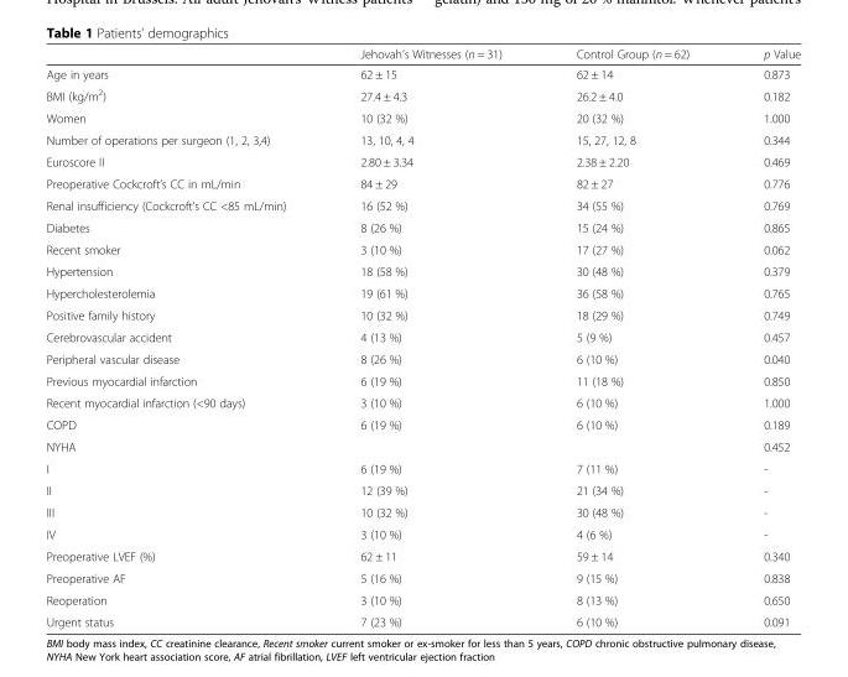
<table><thead><tr><td></td><td>Jehovah’s Witnesses (n = 31)</td><td>Control Group (n = 62)</td><td>p Value</td></tr></thead><tbody><tr><td>Age in years</td><td>62 ± 15</td><td>62 ± 14</td><td>0.873</td></tr><tr><td>BMI (kg/m<sup>2</sup>)</td><td>27.4 ± 4.3</td><td>26.2 ± 4.0</td><td>0.182</td></tr><tr><td>Women</td><td>10 (32 %)</td><td>20 (32 %)</td><td>1.000</td></tr><tr><td>Number of operations per surgeon (1, 2, 3,4)</td><td>13, 10, 4, 4</td><td>15, 27, 12, 8</td><td>0.344</td></tr><tr><td>Euroscore II</td><td>2.80 ± 3.34</td><td>2.38 ± 2.20</td><td>0.469</td></tr><tr><td>Preoperative Cockcroft’s CC in mL/min</td><td>84 ± 29</td><td>82 ± 27</td><td>0.776</td></tr><tr><td>Renal insufficiency (Cockcroft’s CC &lt;85 mL/min)</td><td>16 (52 %)</td><td>34 (55 %)</td><td>0.769</td></tr><tr><td>Diabetes</td><td>8 (26 %)</td><td>15 (24 %)</td><td>0.865</td></tr><tr><td>Recent smoker</td><td>3 (10 %)</td><td>17 (27 %)</td><td>0.062</td></tr><tr><td>Hypertension</td><td>18 (58 %)</td><td>30 (48 %)</td><td>0.379</td></tr><tr><td>Hypercholesterolemia</td><td>19 (61 %)</td><td>36 (58 %)</td><td>0.765</td></tr><tr><td>Positive family history</td><td>10 (32 %)</td><td>18 (29 %)</td><td>0.749</td></tr><tr><td>Cerebrovascular accident</td><td>4 (13 %)</td><td>5 (9 %)</td><td>0.457</td></tr><tr><td>Peripheral vascular disease</td><td>8 (26 %)</td><td>6 (10 %)</td><td>0.040</td></tr><tr><td>Previous myocardial infarction</td><td>6 (19 %)</td><td>11 (18 %)</td><td>0.850</td></tr><tr><td>Recent myocardial infarction (&lt;90 days)</td><td>3 (10 %)</td><td>6 (10 %)</td><td>1.000</td></tr><tr><td>COPD</td><td>6 (19 %)</td><td>6 (10 %)</td><td>0.189</td></tr><tr><td>NYHA</td><td></td><td></td><td>0.452</td></tr><tr><td>I</td><td>6 (19 %)</td><td>7 (11 %)</td><td>-</td></tr><tr><td>II</td><td>12 (39 %)</td><td>21 (34 %)</td><td>-</td></tr><tr><td>III</td><td>10 (32 %)</td><td>30 (48 %)</td><td>-</td></tr><tr><td>IV</td><td>3 (10 %)</td><td>4 (6 %)</td><td>-</td></tr><tr><td>Preoperative LVEF (%)</td><td>62 ± 11</td><td>59 ± 14</td><td>0.340</td></tr><tr><td>Preoperative AF</td><td>5 (16 %)</td><td>9 (15 %)</td><td>0.838</td></tr><tr><td>Reoperation</td><td>3 (10 %)</td><td>8 (13 %)</td><td>0.650</td></tr><tr><td>Urgent status</td><td>7 (23 %)</td><td>6 (10 %)</td><td>0.091</td></tr></tbody></table>